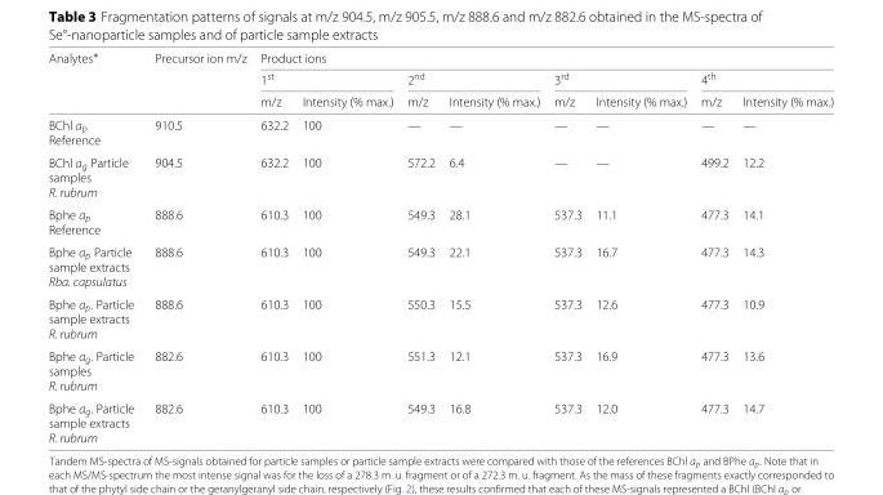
<table><thead><tr><td rowspan="3">Analytes∗</td><td rowspan="3">Precursor ion m/z</td><td colspan="4">Product ions</td><td></td><td></td><td></td><td></td></tr><tr><td colspan="2">1<sup>st</sup></td><td colspan="2">2<sup>nd</sup></td><td colspan="2">3<sup>rd</sup></td><td colspan="2">4<sup>th</sup></td></tr><tr><td>m/z</td><td>Intensity (% max.)</td><td>m/z</td><td>Intensity (% max.)</td><td>m/z</td><td>Intensity (% max.)</td><td>m/z</td><td>Intensity (% max.)</td></tr></thead><tbody><tr><td>BChl a<sub>p</sub> Reference</td><td>910.5</td><td>632.2</td><td>100</td><td>—</td><td>—</td><td>—</td><td>—</td><td>—</td><td>—</td></tr><tr><td>BChl a<sub>g</sub> Particle samples R. rubrum</td><td>904.5</td><td>632.2</td><td>100</td><td>572.2</td><td>6.4</td><td>—</td><td>—</td><td>499.2</td><td>12.2</td></tr><tr><td>Bphe a<sub>p</sub> Reference</td><td>888.6</td><td>610.3</td><td>100</td><td>549.3</td><td>28.1</td><td>537.3</td><td>11.1</td><td>477.3</td><td>14.1</td></tr><tr><td>Bphe a<sub>p</sub> Particle sample extracts Rba. capsulatus</td><td>888.6</td><td>610.3</td><td>100</td><td>549.3</td><td>22.1</td><td>537.3</td><td>16.7</td><td>477.3</td><td>14.3</td></tr><tr><td>Bphe a<sub>p</sub>. Particle sample extracts R. rubrum</td><td>888.6</td><td>610.3</td><td>100</td><td>550.3</td><td>15.5</td><td>537.3</td><td>12.6</td><td>477.3</td><td>10.9</td></tr><tr><td>Bphe a<sub>g</sub>. Particle samples R. rubrum</td><td>882.6</td><td>610.3</td><td>100</td><td>551.3</td><td>12.1</td><td>537.3</td><td>16.9</td><td>477.3</td><td>13.6</td></tr><tr><td>Bphe a<sub>g</sub>. Particle sample extracts R. rubrum</td><td>882.6</td><td>610.3</td><td>100</td><td>549.3</td><td>16.8</td><td>537.3</td><td>12.0</td><td>477.3</td><td>14.7</td></tr></tbody></table>